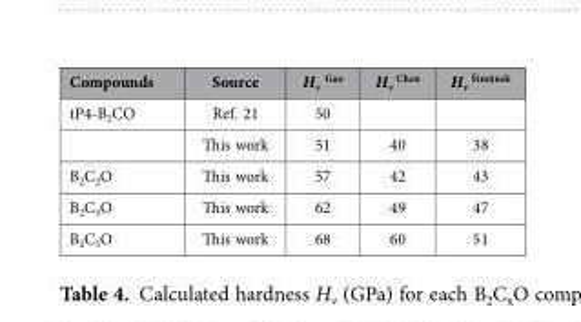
<table><thead><tr><td>Compounds</td><td>Source</td><td>H<sub>v</sub> <sup>Gao</sup></td><td>H<sub>v</sub> <sup>Chen</sup></td><td>H<sub>v</sub> <sup>Šimůnek</sup></td></tr></thead><tbody><tr><td rowspan="2">tP4-B<sub>2</sub>CO</td><td>Ref. 21</td><td>50</td><td></td><td></td></tr><tr><td>This work</td><td>51</td><td>40</td><td>38</td></tr><tr><td>B<sub>2</sub>C<sub>2</sub>O</td><td>This work</td><td>57</td><td>42</td><td>43</td></tr><tr><td>B<sub>2</sub>C<sub>3</sub>O</td><td>This work</td><td>62</td><td>49</td><td>47</td></tr><tr><td>B<sub>2</sub>C<sub>5</sub>O</td><td>This work</td><td>68</td><td>60</td><td>51</td></tr></tbody></table>